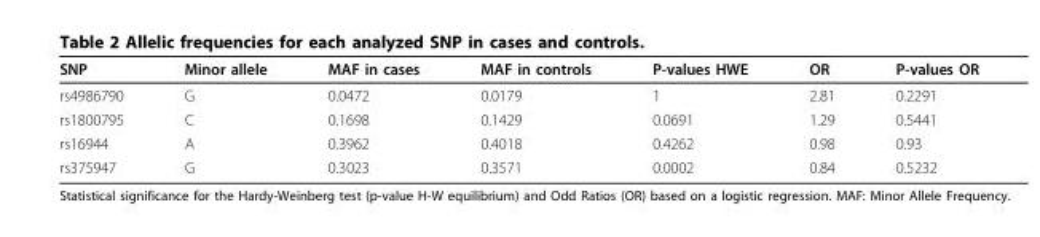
<table><thead><tr><td>SNP</td><td>Minor allele</td><td>MAF in cases</td><td>MAF in controls</td><td>P-values HWE</td><td>OR</td><td>P-values OR</td></tr></thead><tbody><tr><td>rs4986790</td><td>G</td><td>0.0472</td><td>0.0179</td><td>1</td><td>2.81</td><td>0.2291</td></tr><tr><td>rs1800795</td><td>C</td><td>0.1698</td><td>0.1429</td><td>0.0691</td><td>1.29</td><td>0.5441</td></tr><tr><td>rs16944</td><td>A</td><td>0.3962</td><td>0.4018</td><td>0.4262</td><td>0.98</td><td>0.93</td></tr><tr><td>rs375947</td><td>G</td><td>0.3023</td><td>0.3571</td><td>0.0002</td><td>0.84</td><td>0.5232</td></tr></tbody></table>